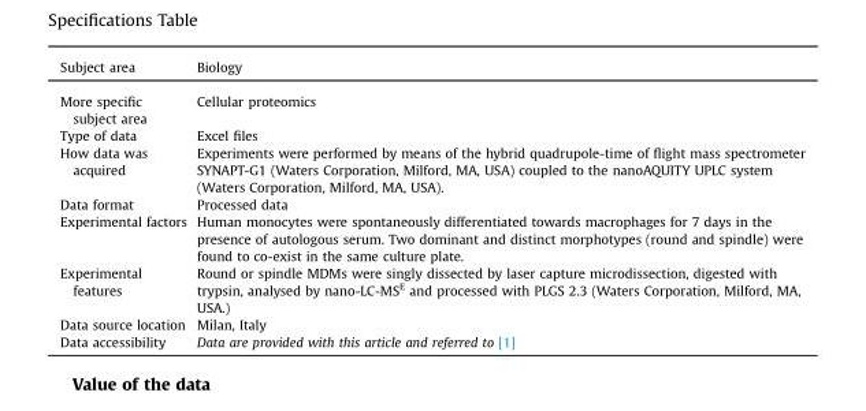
<table><thead><tr><td>Subject area</td><td>Biology</td></tr></thead><tbody><tr><td>More specific subject area</td><td>Cellular proteomics</td></tr><tr><td>Type of data</td><td>Excel files</td></tr><tr><td>How data was acquired</td><td>Experiments were performed by means of the hybrid quadrupole-time of flight mass spectrometer SYNAPT-G1 (Waters Corporation, Milford, MA, USA) coupled to the nanoAQUITY UPLC system (Waters Corporation, Milford, MA, USA).</td></tr><tr><td>Data format</td><td>Processed data</td></tr><tr><td>Experimental factors</td><td>Human monocytes were spontaneously differentiated towards macrophages for 7 days in the presence of autologous serum. Two dominant and distinct morphotypes (round and spindle) were found to co-exist in the same culture plate.</td></tr><tr><td>Experimental features</td><td>Round or spindle MDMs were singly dissected by laser capture microdissection, digested with trypsin, analysed by nano-LC-MS<sup>E</sup> and processed with PLGS 2.3 (Waters Corporation, Milford, MA, USA.)</td></tr><tr><td>Data source location</td><td>Milan, Italy</td></tr><tr><td>Data accessibility</td><td>Data are provided with this article and referred to [1]</td></tr></tbody></table>